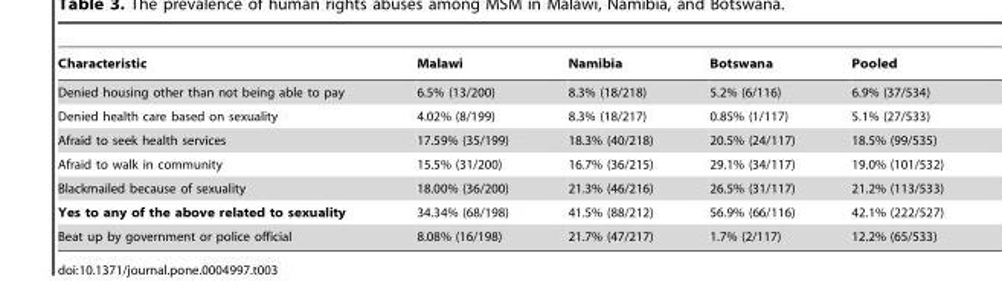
<table><thead><tr><td>Characteristic</td><td>Malawi</td><td>Namibia</td><td>Botswana</td><td>Pooled</td></tr></thead><tbody><tr><td>Denied housing other than not being able to pay</td><td>6.5% (13/200)</td><td>8.3% (18/218)</td><td>5.2% (6/116)</td><td>6.9% (37/534)</td></tr><tr><td>Denied health care based on sexuality</td><td>4.02% (8/199)</td><td>8.3% (18/217)</td><td>0.85% (1/117)</td><td>5.1% (27/533)</td></tr><tr><td>Afraid to seek health services</td><td>17.59% (35/199)</td><td>18.3% (40/218)</td><td>20.5% (24/117)</td><td>18.5% (99/535)</td></tr><tr><td>Afraid to walk in community</td><td>15.5% (31/200)</td><td>16.7% (36/215)</td><td>29.1% (34/117)</td><td>19.0% (101/532)</td></tr><tr><td>Blackmailed because of sexuality</td><td>18.00% (36/200)</td><td>21.3% (46/216)</td><td>26.5% (31/117)</td><td>21.2% (113/533)</td></tr><tr><td>Yes to any of the above related to sexuality</td><td>34.34% (68/198)</td><td>41.5% (88/212)</td><td>56.9% (66/116)</td><td>42.1% (222/527)</td></tr><tr><td>Beat up by government or police official</td><td>8.08% (16/198)</td><td>21.7% (47/217)</td><td>1.7% (2/117)</td><td>12.2% (65/533)</td></tr></tbody></table>